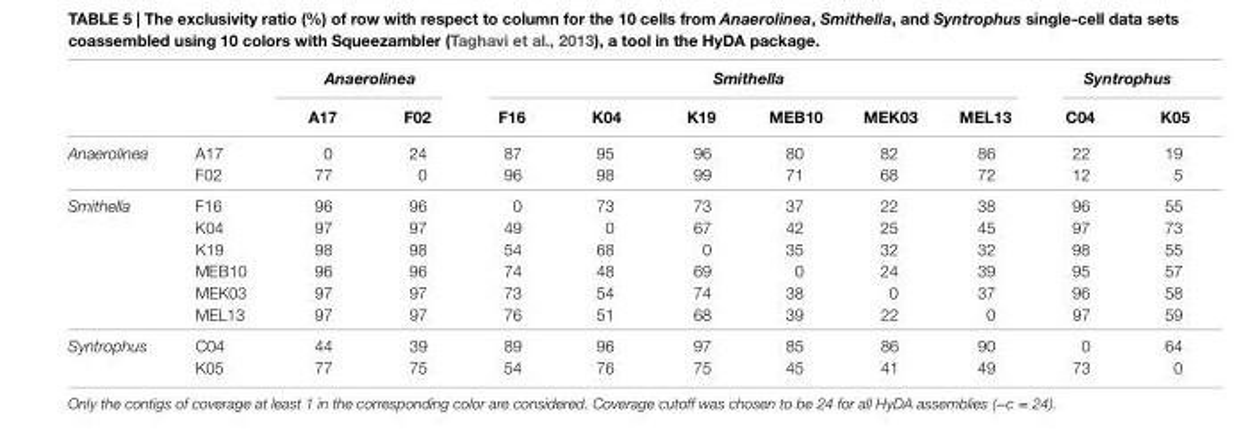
<table><thead><tr><td rowspan="2"></td><td rowspan="2"></td><td colspan="2">Anaerolinea</td><td colspan="6">Smithella</td><td colspan="2">Syntrophus</td></tr><tr><td>A17</td><td>F02</td><td>F16</td><td>K04</td><td>K19</td><td>MeB10</td><td>MeK03</td><td>MeL13</td><td>C04</td><td>K05</td></tr></thead><tbody><tr><td rowspan="2">Anaerolinea</td><td>A17</td><td>0</td><td>24</td><td>87</td><td>95</td><td>96</td><td>80</td><td>82</td><td>86</td><td>22</td><td>19</td></tr><tr><td>F02</td><td>77</td><td>0</td><td>96</td><td>98</td><td>99</td><td>71</td><td>68</td><td>72</td><td>12</td><td>5</td></tr><tr><td rowspan="6">Smithella</td><td>F16</td><td>96</td><td>96</td><td>0</td><td>73</td><td>73</td><td>37</td><td>22</td><td>38</td><td>96</td><td>55</td></tr><tr><td>K04</td><td>97</td><td>97</td><td>49</td><td>0</td><td>67</td><td>42</td><td>25</td><td>45</td><td>97</td><td>73</td></tr><tr><td>K19</td><td>98</td><td>98</td><td>54</td><td>68</td><td>0</td><td>35</td><td>32</td><td>32</td><td>98</td><td>55</td></tr><tr><td>MEB10</td><td>96</td><td>96</td><td>74</td><td>48</td><td>69</td><td>0</td><td>24</td><td>39</td><td>95</td><td>57</td></tr><tr><td>MEK03</td><td>97</td><td>97</td><td>73</td><td>54</td><td>74</td><td>38</td><td>0</td><td>37</td><td>96</td><td>58</td></tr><tr><td>MEL13</td><td>97</td><td>97</td><td>76</td><td>51</td><td>68</td><td>39</td><td>22</td><td>0</td><td>97</td><td>59</td></tr><tr><td rowspan="2">Syntrophus</td><td>C04</td><td>44</td><td>39</td><td>89</td><td>96</td><td>97</td><td>85</td><td>86</td><td>90</td><td>0</td><td>64</td></tr><tr><td>K05</td><td>77</td><td>75</td><td>54</td><td>76</td><td>75</td><td>45</td><td>41</td><td>49</td><td>73</td><td>0</td></tr></tbody></table>